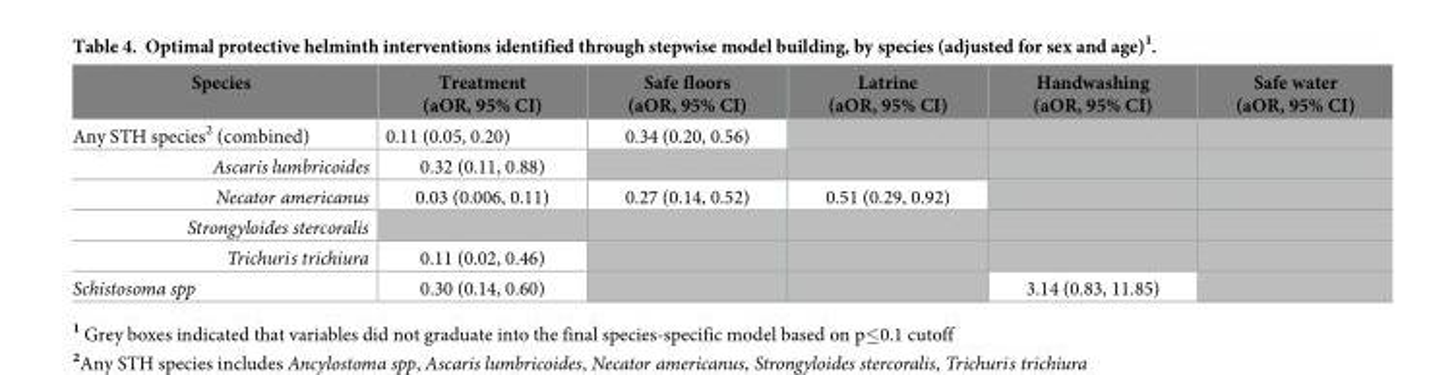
<table><thead><tr><td>Species</td><td>Treatment (aOR, 95% CI)</td><td>Safe floors (aOR, 95% CI)</td><td>Latrine (aOR, 95% CI)</td><td>Handwashing (aOR, 95% CI)</td><td>Safe water (aOR, 95% CI)</td></tr></thead><tbody><tr><td>Any STH species<sup>2</sup> (combined)</td><td>0.11 (0.05, 0.20)</td><td>0.34 (0.20, 0.56)</td><td></td><td></td><td></td></tr><tr><td>Ascaris lumbricoides</td><td>0.32 (0.11, 0.88)</td><td></td><td></td><td></td><td></td></tr><tr><td>Necator americanus</td><td>0.03 (0.006, 0.11)</td><td>0.27 (0.14, 0.52)</td><td>0.51 (0.29, 0.92)</td><td></td><td></td></tr><tr><td colspan="6">Strongyloides stercoralis</td></tr><tr><td>Trichuris trichiura</td><td>0.11 (0.02, 0.46)</td><td></td><td></td><td></td><td></td></tr><tr><td>Schistosoma spp</td><td>0.30 (0.14, 0.60)</td><td></td><td></td><td>3.14 (0.83, 11.85)</td><td></td></tr></tbody></table>